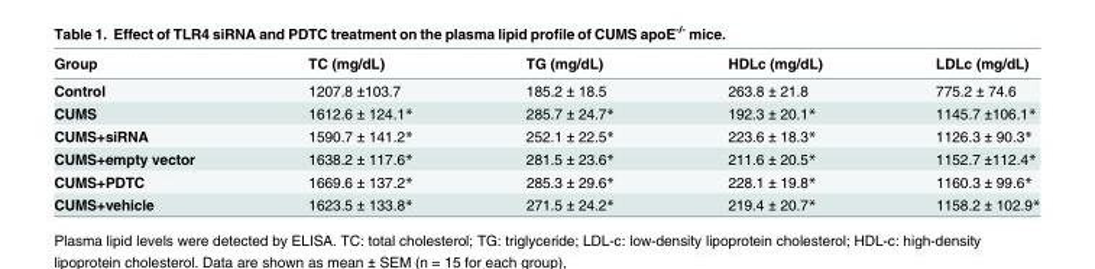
<table><thead><tr><td>Group</td><td>TC (mg/dL)</td><td>TG (mg/dL)</td><td>HDLc (mg/dL)</td><td>LDLc (mg/dL)</td></tr></thead><tbody><tr><td>Control</td><td>1207.8 ±103.7</td><td>185.2 ± 18.5</td><td>263.8 ± 21.8</td><td>775.2 ± 74.6</td></tr><tr><td>CUMS</td><td>1612.6 ± 124.1*</td><td>285.7 ± 24.7*</td><td>192.3 ± 20.1*</td><td>1145.7 ±106.1*</td></tr><tr><td>CUMS+siRNA</td><td>1590.7 ± 141.2*</td><td>252.1 ± 22.5*</td><td>223.6 ± 18.3*</td><td>1126.3 ± 90.3*</td></tr><tr><td>CUMS+empty vector</td><td>1638.2 ± 117.6*</td><td>281.5 ± 23.6*</td><td>211.6 ± 20.5*</td><td>1152.7 ±112.4*</td></tr><tr><td>CUMS+PDTC</td><td>1669.6 ± 137.2*</td><td>285.3 ± 29.6*</td><td>228.1 ± 19.8*</td><td>1160.3 ± 99.6*</td></tr><tr><td>CUMS+vehicle</td><td>1623.5 ± 133.8*</td><td>271.5 ± 24.2*</td><td>219.4 ± 20.7*</td><td>1158.2 ± 102.9*</td></tr></tbody></table>